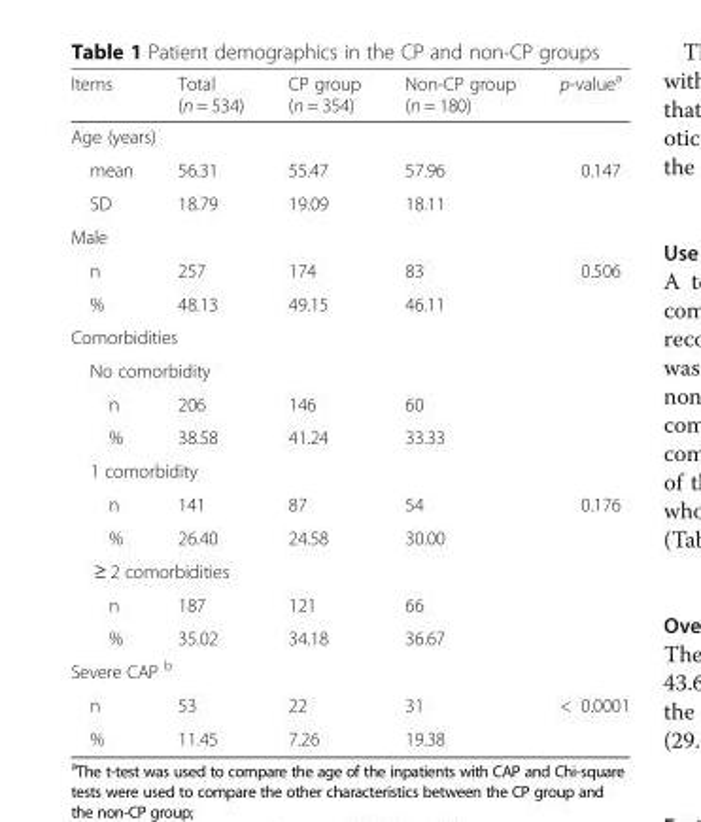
<table><thead><tr><td>Items</td><td>Total (n = 534)</td><td>CP group (n = 354)</td><td>Non-CP group (n = 180)</td><td>p-value<sup>a</sup></td></tr></thead><tbody><tr><td colspan="5">Age (years)</td></tr><tr><td>mean</td><td>56.31</td><td>55.47</td><td>57.96</td><td>0.147</td></tr><tr><td>SD</td><td>18.79</td><td>19.09</td><td>18.11</td><td></td></tr><tr><td colspan="5">Male</td></tr><tr><td>n</td><td>257</td><td>174</td><td>83</td><td>0.506</td></tr><tr><td>%</td><td>48.13</td><td>49.15</td><td>46.11</td><td></td></tr><tr><td colspan="5">Comorbidities</td></tr><tr><td colspan="5">No comorbidity</td></tr><tr><td>n</td><td>206</td><td>146</td><td>60</td><td></td></tr><tr><td>%</td><td>38.58</td><td>41.24</td><td>33.33</td><td></td></tr><tr><td colspan="5">1 comorbidity</td></tr><tr><td>n</td><td>141</td><td>87</td><td>54</td><td>0.176</td></tr><tr><td>%</td><td>26.40</td><td>24.58</td><td>30.00</td><td></td></tr><tr><td colspan="5">≥ 2 comorbidities</td></tr><tr><td>n</td><td>187</td><td>121</td><td>66</td><td></td></tr><tr><td>%</td><td>35.02</td><td>34.18</td><td>36.67</td><td></td></tr><tr><td colspan="5">Severe CAP <sup>b</sup></td></tr><tr><td>n</td><td>53</td><td>22</td><td>31</td><td>&lt; 0.0001</td></tr><tr><td>%</td><td>11.45</td><td>7.26</td><td>19.38</td><td></td></tr></tbody></table>